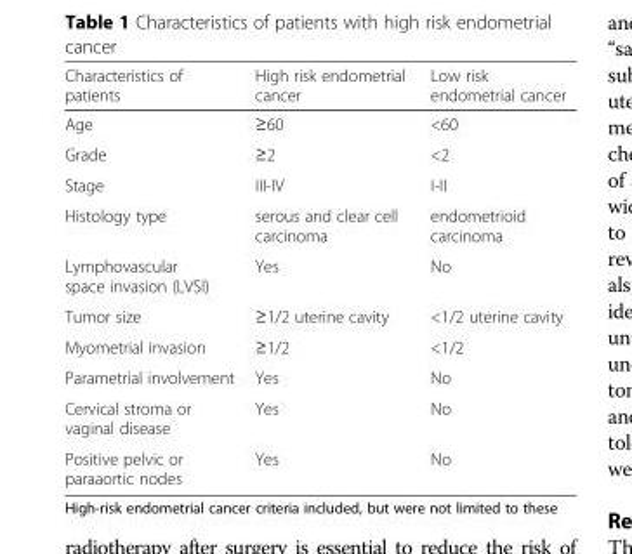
<table><thead><tr><td>Characteristics of patients</td><td>High risk endometrial cancer</td><td>Low risk endometrial cancer</td></tr></thead><tbody><tr><td>Age</td><td>≥60</td><td>&lt;60</td></tr><tr><td>Grade</td><td>≥2</td><td>&lt;2</td></tr><tr><td>Stage</td><td>III-IV</td><td>I-II</td></tr><tr><td>Histology type</td><td>serous and clear cell carcinoma</td><td>endometrioid carcinoma</td></tr><tr><td>Lymphovascular space invasion (LVSI)</td><td>Yes</td><td>No</td></tr><tr><td>Tumor size</td><td>≥1/2 uterine cavity</td><td>&lt;1/2 uterine cavity</td></tr><tr><td>Myometrial invasion</td><td>≥1/2</td><td>&lt;1/2</td></tr><tr><td>Parametrial involvement</td><td>Yes</td><td>No</td></tr><tr><td>Cervical stroma or vaginal disease</td><td>Yes</td><td>No</td></tr><tr><td>Positive pelvic or paraaortic nodes</td><td>Yes</td><td>No</td></tr></tbody></table>